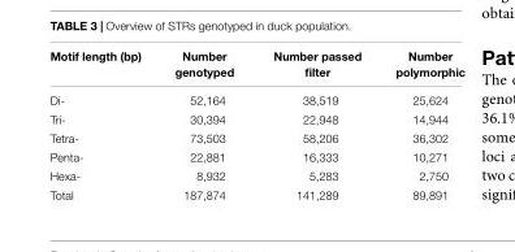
<table><thead><tr><td>Motif length (bp)</td><td>Number genotyped</td><td>Number passed filter</td><td>Number polymorphic</td></tr></thead><tbody><tr><td>Di-</td><td>52,164</td><td>38,519</td><td>25,624</td></tr><tr><td>Tri-</td><td>30,394</td><td>22,948</td><td>14,944</td></tr><tr><td>Tetra-</td><td>73,503</td><td>58,206</td><td>36,302</td></tr><tr><td>Penta-</td><td>22,881</td><td>16,333</td><td>10,271</td></tr><tr><td>Hexa-</td><td>8,932</td><td>5,283</td><td>2,750</td></tr><tr><td>Total</td><td>187,874</td><td>141,289</td><td>89,891</td></tr></tbody></table>